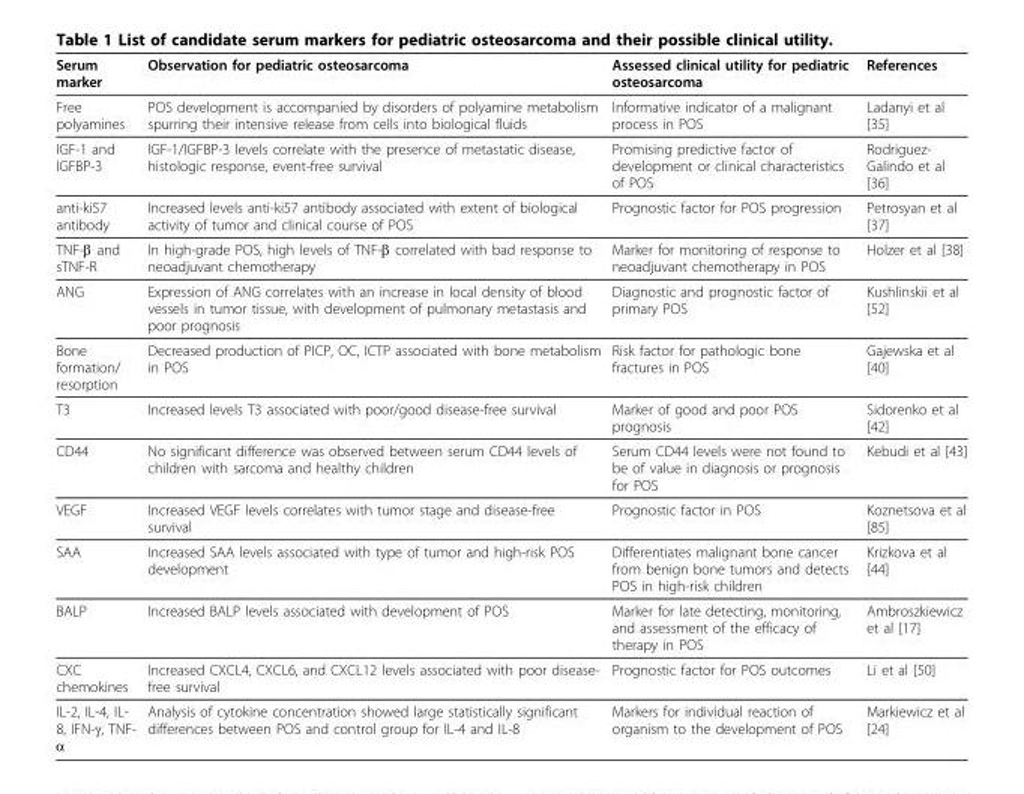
<table><thead><tr><td>Serum marker</td><td>Observation for pediatric osteosarcoma</td><td>Assessed clinical utility for pediatric osteosarcoma</td><td>References</td></tr></thead><tbody><tr><td>Free polyamines</td><td>POS development is accompanied by disorders of polyamine metabolism spurring their intensive release from cells into biological fluids</td><td>Informative indicator of a malignant process in POS</td><td>Ladanyi et al [35]</td></tr><tr><td>IGF-1 and IGFBP-3</td><td>IGF-1/IGFBP-3 levels correlate with the presence of metastatic disease, histologic response, event-free survival</td><td>Promising predictive factor of development or clinical characteristics of POS</td><td>Rodriguez- Galindo et al [36]</td></tr><tr><td>anti-ki57 antibody</td><td>Increased levels anti-ki57 antibody associated with extent of biological activity of tumor and clinical course of POS</td><td>Prognostic factor for POS progression</td><td>Petrosyan et al [37]</td></tr><tr><td>TNF-β and sTNF-R</td><td>In high-grade POS, high levels of TNF-β correlated with bad response to neoadjuvant chemotherapy</td><td>Marker for monitoring of response to neoadjuvant chemotherapy in POS</td><td>Holzer et al [38]</td></tr><tr><td>ANG</td><td>Expression of ANG correlates with an increase in local density of blood vessels in tumor tissue, with development of pulmonary metastasis and poor prognosis</td><td>Diagnostic and prognostic factor of primary POS</td><td>Kushlinskii et al [52]</td></tr><tr><td>Bone formation/ resorption</td><td>Decreased production of PICP, OC, ICTP associated with bone metabolism in POS</td><td>Risk factor for pathologic bone fractures in POS</td><td>Gajewska et al [40]</td></tr><tr><td>T3</td><td>Increased levels T3 associated with poor/good disease-free survival</td><td>Marker of good and poor POS prognosis</td><td>Sidorenko et al [42]</td></tr><tr><td>CD44</td><td>No significant difference was observed between serum CD44 levels of children with sarcoma and healthy children</td><td>Serum CD44 levels were not found to be of value in diagnosis or prognosis for POS</td><td>Kebudi et al [43]</td></tr><tr><td>VEGF</td><td>Increased VEGF levels correlates with tumor stage and disease-free survival</td><td>Prognostic factor in POS</td><td>Koznetsova et al [85]</td></tr><tr><td>SAA</td><td>Increased SAA levels associated with type of tumor and high-risk POS development</td><td>Differentiates malignant bone cancer from benign bone tumors and detects POS in high-risk children</td><td>Krizkova et al [44]</td></tr><tr><td>BALP</td><td>Increased BALP levels associated with development of POS</td><td>Marker for late detecting, monitoring, and assessment of the efficacy of therapy in POS</td><td>Ambroszkiewicz et al [17]</td></tr><tr><td>CXC chemokines</td><td>Increased CXCL4, CXCL6, and CXCL12 levels associated with poor disease- free survival</td><td>Prognostic factor for POS outcomes</td><td>Li et al [50]</td></tr><tr><td>IL-2, IL-4, IL- 8, IFN-g, TNF-</td><td>Analysis of cytokine concentration showed large statistically significant differences between POS and control group for IL-4 and IL-8</td><td>Markers for individual reaction of organism to the development of POS</td><td>Markiewicz et al [24]</td></tr></tbody></table>